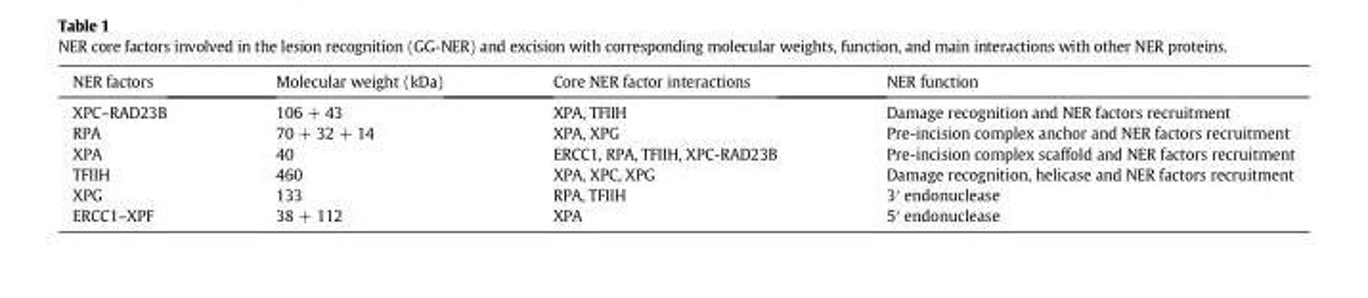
<table><thead><tr><td>NER factors</td><td>Molecular weight (kDa)</td><td>Core NER factor interactions</td><td>NER function</td></tr></thead><tbody><tr><td>XPC–RAD23B</td><td>106 + 43</td><td>XPA, TFIIH</td><td>Damage recognition and NER factors recruitment</td></tr><tr><td>RPA</td><td>70 + 32 + 14</td><td>XPA, XPG</td><td>Pre-incision complex anchor and NER factors recruitment</td></tr><tr><td>XPA</td><td>40</td><td>ERCC1, RPA, TFIIH, XPC-RAD23B</td><td>Pre-incision complex scaffold and NER factors recruitment</td></tr><tr><td>TFIIH</td><td>460</td><td>XPA, XPC, XPG</td><td>Damage recognition, helicase and NER factors recruitment</td></tr><tr><td>XPG</td><td>133</td><td>RPA, TFIIH</td><td>3′ endonuclease</td></tr><tr><td>ERCC1–XPF</td><td>38 + 112</td><td>XPA</td><td>5′ endonuclease</td></tr></tbody></table>